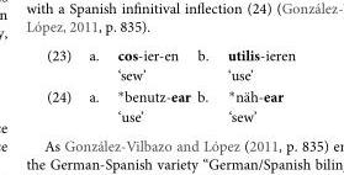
<table><tbody><tr><td rowspan="2">(23)</td><td>a.</td><td>cos-ier-en</td><td>b.</td><td>utilis-ieren</td></tr><tr><td></td><td>‘sew’</td><td></td><td>‘use’</td></tr><tr><td rowspan="2">(24)</td><td>a.</td><td>∗benutz-ear</td><td>b.</td><td>∗näh-ear</td></tr><tr><td></td><td>‘use’</td><td></td><td>‘sew’</td></tr></tbody></table>